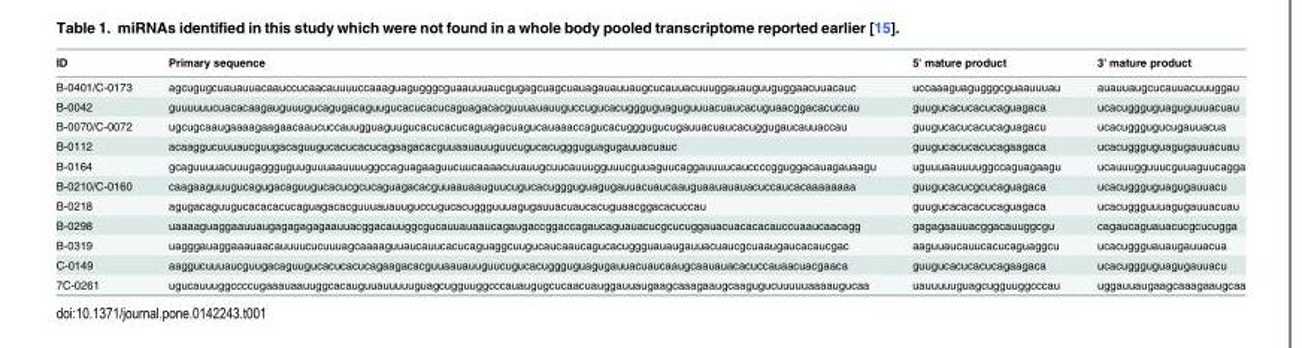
<table><thead><tr><td>ID</td><td>Primary sequence</td><td>5&#x27; mature product</td><td>3&#x27; mature product</td></tr></thead><tbody><tr><td>B-0401/C-0173</td><td>agcugugcuauauuacaauccucaacauuuuccaaaguagugggcguaauuuaucgugagcuagcuauagauauuaugcucauuacuuuggauauguuguggaacuuacauc</td><td>uccaaaguagugggcguaauuuau</td><td>auauuaugcucauuacuuuggau</td></tr><tr><td>B-0042</td><td>guuuuuucuacacaagauguuugucagugacaguugucacucacucaguagacacguuuauauuguccugucacuggguguaguguuuacuaucacuguaacggacacuccau</td><td>guugucacucacucaguagaca</td><td>ucacuggguguaguguuuacuau</td></tr><tr><td>B-0070/C-0072</td><td>ugcugcaaugaaaagaagaacaaucuccauugguaguugucacucacucaguagacuagucauaaaccagucacugggugucugauuacuaucacuggugaucauuaccau</td><td>guugucacucacucaguagacu</td><td>ucacugggugucugauuacua</td></tr><tr><td>B-0112</td><td>acaaggucuuuaucguugacaguugucacucacucagaagacacguuaauauuguucugucacuggguguagugauuacuauc</td><td>guugucacucacucagaagaca</td><td>ucacuggguguagugauuacuau</td></tr><tr><td>B-0164</td><td>gcaguuuuacuuugaggguguuguuuaauuuuggccaguagaaguucuucaaaacuuauugcuucauuugguuucguuaguucaggauuuucauccccgguggacauagauaagu</td><td>uguuuaauuuuggccaguagaagu</td><td>ucauuugguuucguuaguucagga</td></tr><tr><td>B-0210/C-0160</td><td>caagaaguuugucagugacaguugucacucgcucaguagacacguuaauaauguucugucacuggguguagugauuacuaucaauguaauauauacuccaucacaaaaaaaa</td><td>guugucacucgcucaguagaca</td><td>ucacuggguguagugauuacu</td></tr><tr><td>B-0218</td><td>agugacaguugucacacacucaguagacacguuuauauuguccugucacuggguuuagugauuacuaucacuguaacggacacuccau</td><td>guugucacacacucaguagaca</td><td>ucacuggguuuagugauuacuau</td></tr><tr><td>B-0298</td><td>uaaaaguaggaauuaugagagagagaauuacggacauuggcgucauuauaaucagaugaccggaccagaucaguauacucgcucuggauacuacacacauccuaaucaacagg</td><td>gagagaauuacggacauuggcgu</td><td>cagaucaguauacucgcucugga</td></tr><tr><td>B-0319</td><td>uagggauaggaaauaacauuuucucuuuagcaaaaguuaucauucacucaguaggcuugucaucaaucagucacuggguauaugauuacuaucgcuaaugaucacaucgac</td><td>aaguuaucauucacucaguaggcu</td><td>ucacuggguauaugauuacua</td></tr><tr><td>C-0149</td><td>aaggucuuuaucguugacaguugucacucacucagaagacacguuaauauuguucugucacuggguguagugauuacuaucaaugcaauauacacuccauaacuacgaaca</td><td>guugucacucacucagaagaca</td><td>ucacuggguguagugauuacu</td></tr><tr><td>7C-0261</td><td>ugucauuuggccccugaaauaauuggcacauguuauuuuuguagcugguuggcccauaugugcucaacuauggauuaugaagcaaagaaugcaagugucuuuuuaaaaugucaa</td><td>uauuuuuguagcugguuggcccau</td><td>uggauuaugaagcaaagaaugcaa</td></tr></tbody></table>